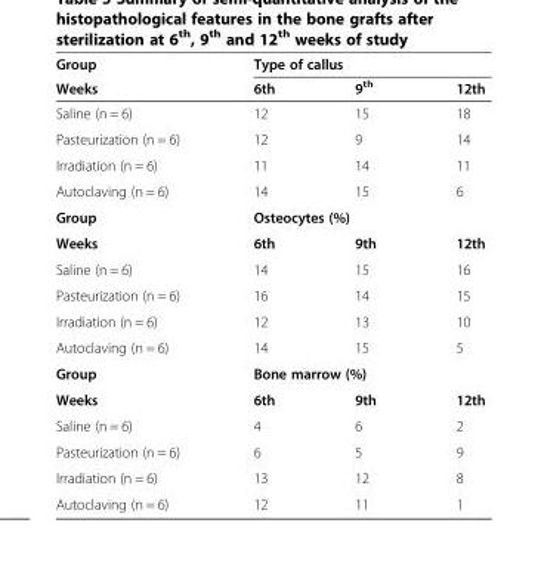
<table><thead><tr><td rowspan="2">Group Weeks</td><td colspan="3">Type of callus</td></tr><tr><td>6th</td><td>9<sup>th</sup></td><td>12th</td></tr></thead><tbody><tr><td>Saline (n = 6)</td><td>12</td><td>15</td><td>18</td></tr><tr><td>Pasteurization (n = 6)</td><td>12</td><td>9</td><td>14</td></tr><tr><td>Irradiation (n = 6)</td><td>11</td><td>14</td><td>11</td></tr><tr><td>Autoclaving (n = 6)</td><td>14</td><td>15</td><td>6</td></tr><tr><td>Group</td><td colspan="3">Osteocytes (%)</td></tr><tr><td>Weeks</td><td>6th</td><td>9th</td><td>12th</td></tr><tr><td>Saline (n = 6)</td><td>14</td><td>15</td><td>16</td></tr><tr><td>Pasteurization (n = 6)</td><td>16</td><td>14</td><td>15</td></tr><tr><td>Irradiation (n = 6)</td><td>12</td><td>13</td><td>10</td></tr><tr><td>Autoclaving (n = 6)</td><td>14</td><td>15</td><td>5</td></tr><tr><td>Group</td><td colspan="3">Bone marrow (%)</td></tr><tr><td>Weeks</td><td>6th</td><td>9th</td><td>12th</td></tr><tr><td>Saline (n = 6)</td><td>4</td><td>6</td><td>2</td></tr><tr><td>Pasteurization (n = 6)</td><td>6</td><td>5</td><td>9</td></tr><tr><td>Irradiation (n = 6)</td><td>13</td><td>12</td><td>8</td></tr><tr><td>Autoclaving (n = 6)</td><td>12</td><td>11</td><td>1</td></tr></tbody></table>